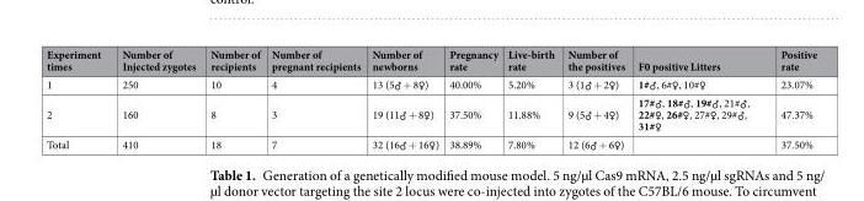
<table><thead><tr><td>Experiment times</td><td>Number of Injected zygotes</td><td>Number of recipients</td><td>Number of pregnant recipients</td><td>Number of newborns</td><td>Pregnancy rate</td><td>Live-birth rate</td><td>Number of the positives</td><td>F0 positive Litters</td><td>Positive rate</td></tr></thead><tbody><tr><td>1</td><td>250</td><td>10</td><td>4</td><td>13 (5♂ + 8♀)</td><td>40.00%</td><td>5.20%</td><td>3 (1♂ + 2♀)</td><td>1#♂, 6#♀, 10#♀</td><td>23.07%</td></tr><tr><td>2</td><td>160</td><td>8</td><td>3</td><td>19 (11♂ + 8♀)</td><td>37.50%</td><td>11.88%</td><td>9 (5♂ + 4♀)</td><td>17#♂, 18#♂, 19#♂, 21#♂, 22#♀, 26#♀, 27#♀, 29#♂, 31#♀</td><td>47.37%</td></tr><tr><td>Total</td><td>410</td><td>18</td><td>7</td><td>32 (16♂ + 16♀)</td><td>38.89%</td><td>7.80%</td><td>12 (6♂ + 6♀)</td><td></td><td>37.50%</td></tr></tbody></table>